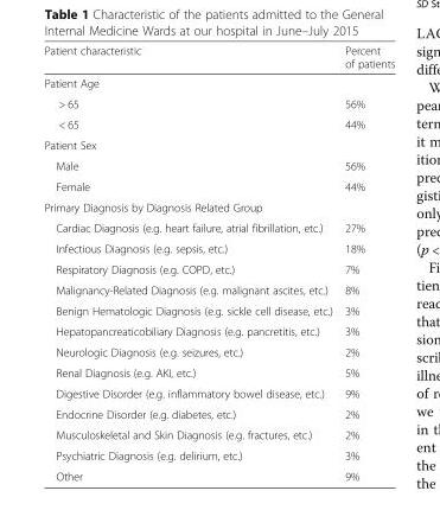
<table><thead><tr><td>Patient characteristic</td><td>Percent of patients</td></tr></thead><tbody><tr><td colspan="2">Patient Age</td></tr><tr><td>&gt; 65</td><td>56%</td></tr><tr><td>&lt; 65</td><td>44%</td></tr><tr><td colspan="2">Patient Sex</td></tr><tr><td>Male</td><td>56%</td></tr><tr><td>Female</td><td>44%</td></tr><tr><td colspan="2">Primary Diagnosis by Diagnosis Related Group</td></tr><tr><td>Cardiac Diagnosis (e.g. heart failure, atrial fibrillation, etc.)</td><td>27%</td></tr><tr><td>Infectious Diagnosis (e.g. sepsis, etc.)</td><td>18%</td></tr><tr><td>Respiratory Diagnosis (e.g. COPD, etc.)</td><td>7%</td></tr><tr><td>Malignancy-Related Diagnosis (e.g. malignant ascites, etc.)</td><td>8%</td></tr><tr><td>Benign Hematologic Diagnosis (e.g. sickle cell disease, etc.)</td><td>3%</td></tr><tr><td>Hepatopancreaticobiliary Diagnosis (e.g. pancretitis, etc.)</td><td>3%</td></tr><tr><td>Neurologic Diagnosis (e.g. seizures, etc.)</td><td>2%</td></tr><tr><td>Renal Diagnosis (e.g. AKI, etc.)</td><td>5%</td></tr><tr><td>Digestive Disorder (e.g. inflammatory bowel disease, etc.)</td><td>9%</td></tr><tr><td>Endocrine Disorder (e.g. diabetes, etc.)</td><td>2%</td></tr><tr><td>Musculoskeletal and Skin Diagnosis (e.g. fractures, etc.)</td><td>2%</td></tr><tr><td>Psychiatric Diagnosis (e.g. delirium, etc.)</td><td>3%</td></tr><tr><td>Other</td><td>9%</td></tr></tbody></table>